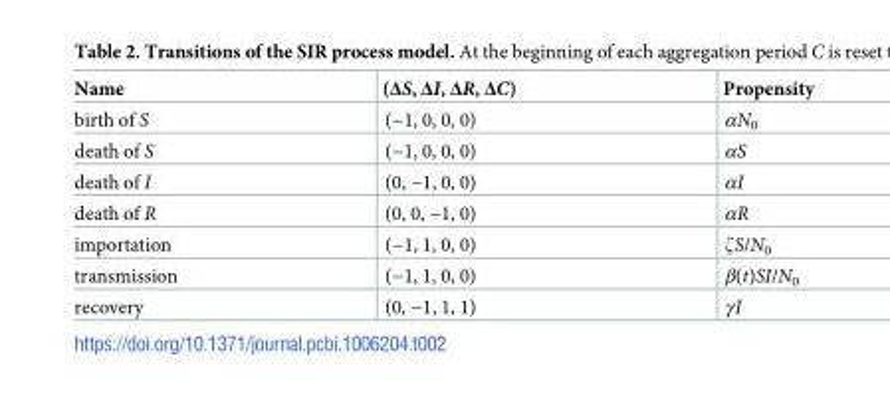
<table><thead><tr><td>Name</td><td>(ΔS, ΔI, ΔR, ΔC)</td><td>Propensity</td></tr></thead><tbody><tr><td>birth of S</td><td>(−1, 0, 0, 0)</td><td>αN<sub>0</sub></td></tr><tr><td>death of S</td><td>(−1, 0, 0, 0)</td><td>αS</td></tr><tr><td>death of I</td><td>(0, −1, 0, 0)</td><td>αI</td></tr><tr><td>death of R</td><td>(0, 0, −1, 0)</td><td>αR</td></tr><tr><td>importation</td><td>(−1, 1, 0, 0)</td><td>ζS/N<sub>0</sub></td></tr><tr><td>transmission</td><td>(−1, 1, 0, 0)</td><td>β(t)SI/N<sub>0</sub></td></tr><tr><td>recovery</td><td>(0, −1, 1, 1)</td><td>γI</td></tr></tbody></table>